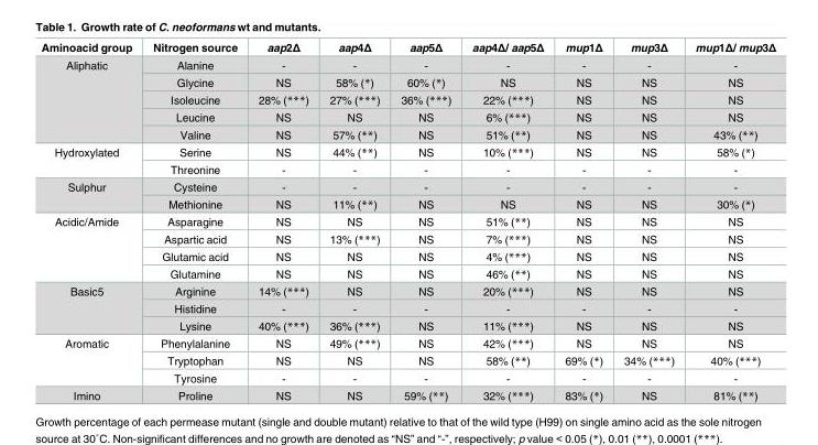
<table><thead><tr><td>Aminoacid group</td><td>Nitrogen source</td><td>aap2Δ</td><td>aap4Δ</td><td>aap5Δ</td><td>aap4Δ/ aap5Δ</td><td>mup1Δ</td><td>mup3Δ</td><td>mup1Δ/ mup3Δ</td></tr></thead><tbody><tr><td rowspan="5">Aliphatic</td><td>Alanine</td><td>-</td><td>-</td><td>-</td><td>-</td><td>-</td><td>-</td><td>-</td></tr><tr><td>Glycine</td><td>NS</td><td>58% (*)</td><td>60% (*)</td><td>NS</td><td>NS</td><td>NS</td><td>NS</td></tr><tr><td>Isoleucine</td><td>28% (***)</td><td>27% (***)</td><td>36% (***)</td><td>22% (***)</td><td>NS</td><td>NS</td><td>NS</td></tr><tr><td>Leucine</td><td>NS</td><td>NS</td><td>NS</td><td>6% (***)</td><td>NS</td><td>NS</td><td>NS</td></tr><tr><td>Valine</td><td>NS</td><td>57% (**)</td><td>NS</td><td>51% (**)</td><td>NS</td><td>NS</td><td>43% (**)</td></tr><tr><td rowspan="2">Hydroxylated</td><td>Serine</td><td>NS</td><td>44% (**)</td><td>NS</td><td>10% (***)</td><td>NS</td><td>NS</td><td>58% (*)</td></tr><tr><td>Threonine</td><td>-</td><td>-</td><td>-</td><td>-</td><td>-</td><td>-</td><td>-</td></tr><tr><td rowspan="2">Sulphur</td><td>Cysteine</td><td>-</td><td>-</td><td>-</td><td>-</td><td>-</td><td>-</td><td>-</td></tr><tr><td>Methionine</td><td>NS</td><td>11% (**)</td><td>NS</td><td>NS</td><td>NS</td><td>NS</td><td>30% (*)</td></tr><tr><td rowspan="4">Acidic/Amide</td><td>Asparagine</td><td>NS</td><td>NS</td><td>NS</td><td>51% (**)</td><td>NS</td><td>NS</td><td>NS</td></tr><tr><td>Aspartic acid</td><td>NS</td><td>13% (***)</td><td>NS</td><td>7% (***)</td><td>NS</td><td>NS</td><td>NS</td></tr><tr><td>Glutamic acid</td><td>NS</td><td>NS</td><td>NS</td><td>4% (***)</td><td>NS</td><td>NS</td><td>NS</td></tr><tr><td>Glutamine</td><td>NS</td><td>NS</td><td>NS</td><td>46% (**)</td><td>NS</td><td>NS</td><td>NS</td></tr><tr><td rowspan="3">Basic5</td><td>Arginine</td><td>14% (***)</td><td>NS</td><td>NS</td><td>20% (***)</td><td>NS</td><td>NS</td><td>NS</td></tr><tr><td>Histidine</td><td>-</td><td>-</td><td>-</td><td>-</td><td>-</td><td>-</td><td>-</td></tr><tr><td>Lysine</td><td>40% (***)</td><td>36% (***)</td><td>NS</td><td>11% (***)</td><td>NS</td><td>NS</td><td>NS</td></tr><tr><td rowspan="3">Aromatic</td><td>Phenylalanine</td><td>NS</td><td>49% (***)</td><td>NS</td><td>42% (***)</td><td>NS</td><td>NS</td><td>NS</td></tr><tr><td>Tryptophan</td><td>NS</td><td>NS</td><td>NS</td><td>58% (**)</td><td>69% (*)</td><td>34% (***)</td><td>40% (***)</td></tr><tr><td>Tyrosine</td><td>-</td><td>-</td><td>-</td><td>-</td><td>-</td><td>-</td><td>-</td></tr><tr><td>Imino</td><td>Proline</td><td>NS</td><td>NS</td><td>59% (**)</td><td>32% (***)</td><td>83% (*)</td><td>NS</td><td>81% (**)</td></tr></tbody></table>